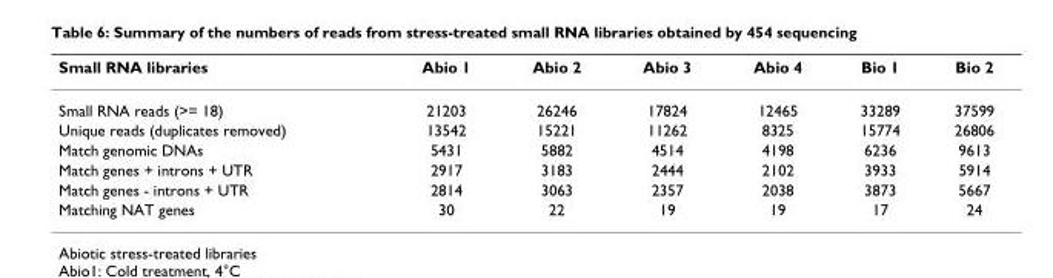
<table><thead><tr><td>Small RNA libraries</td><td>Abio 1</td><td>Abio 2</td><td>Abio 3</td><td>Abio 4</td><td>Bio 1</td><td>Bio 2</td></tr></thead><tbody><tr><td>Small RNA reads (&gt;= 18)</td><td>21203</td><td>26246</td><td>17824</td><td>12465</td><td>33289</td><td>37599</td></tr><tr><td>Unique reads (duplicates removed)</td><td>13542</td><td>15221</td><td>11262</td><td>8325</td><td>15774</td><td>26806</td></tr><tr><td>Match genomic DNAs</td><td>5431</td><td>5882</td><td>4514</td><td>4198</td><td>6236</td><td>9613</td></tr><tr><td>Match genes + introns + UTR</td><td>2917</td><td>3183</td><td>2444</td><td>2102</td><td>3933</td><td>5914</td></tr><tr><td>Match genes - introns + UTR</td><td>2814</td><td>3063</td><td>2357</td><td>2038</td><td>3873</td><td>5667</td></tr><tr><td>Matching NAT genes</td><td>30</td><td>22</td><td>19</td><td>19</td><td>17</td><td>24</td></tr></tbody></table>